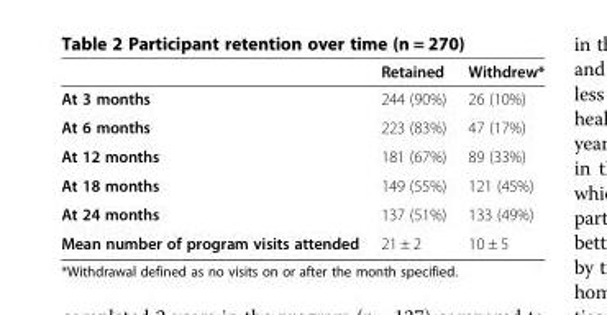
<table><thead><tr><td></td><td>Retained</td><td>Withdrew*</td></tr></thead><tbody><tr><td>At 3 months</td><td>244 (90%)</td><td>26 (10%)</td></tr><tr><td>At 6 months</td><td>223 (83%)</td><td>47 (17%)</td></tr><tr><td>At 12 months</td><td>181 (67%)</td><td>89 (33%)</td></tr><tr><td>At 18 months</td><td>149 (55%)</td><td>121 (45%)</td></tr><tr><td>At 24 months</td><td>137 (51%)</td><td>133 (49%)</td></tr><tr><td>Mean number of program visits attended</td><td>21 ± 2</td><td>10 ± 5</td></tr></tbody></table>